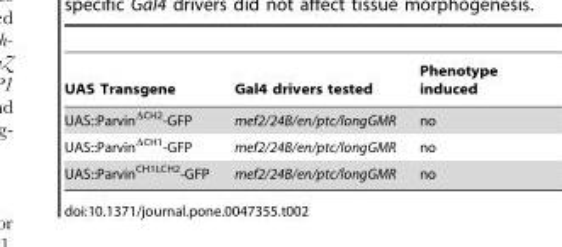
<table><thead><tr><td>UAS Transgene</td><td>Gal4 drivers tested</td><td>Phenotype induced</td></tr></thead><tbody><tr><td>UAS::Parvin<sup>ΔCH2</sup>-GFP</td><td>mef2/24B/en/ptc/longGMR</td><td>no</td></tr><tr><td>UAS::Parvin<sup>ΔCH1</sup>-GFP</td><td>mef2/24B/en/ptc/longGMR</td><td>no</td></tr><tr><td>UAS::Parvin<sup>CH1LCH2</sup>-GFP</td><td>mef2/24B/en/ptc/longGMR</td><td>no</td></tr></tbody></table>